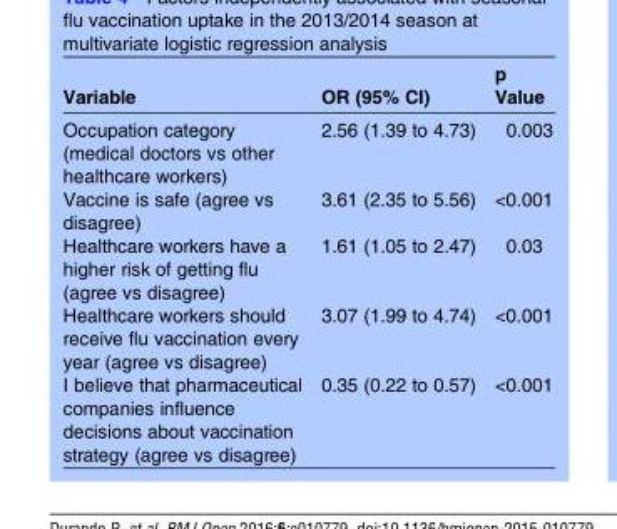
<table><thead><tr><td>Variable</td><td>OR (95% CI)</td><td>p Value</td></tr></thead><tbody><tr><td>Occupation category (medical doctors vs other healthcare workers)</td><td>2.56 (1.39 to 4.73)</td><td>0.003</td></tr><tr><td>Vaccine is safe (agree vs disagree)</td><td>3.61 (2.35 to 5.56)</td><td>&lt;0.001</td></tr><tr><td>Healthcare workers have a higher risk of getting flu (agree vs disagree)</td><td>1.61 (1.05 to 2.47)</td><td>0.03</td></tr><tr><td>Healthcare workers should receive flu vaccination every year (agree vs disagree)</td><td>3.07 (1.99 to 4.74)</td><td>&lt;0.001</td></tr><tr><td>I believe that pharmaceutical companies influence decisions about vaccination strategy (agree vs disagree)</td><td>0.35 (0.22 to 0.57)</td><td>&lt;0.001</td></tr></tbody></table>